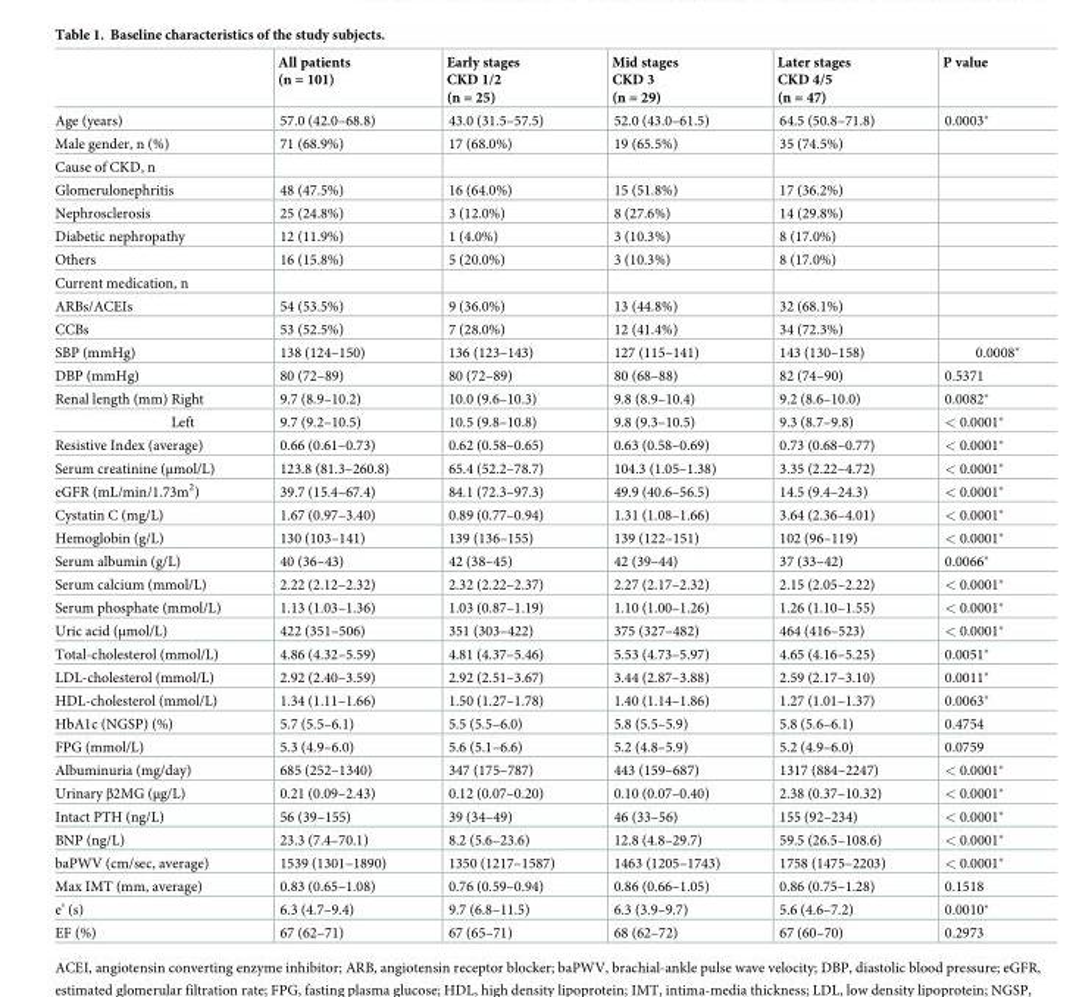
<table><thead><tr><td></td><td>All patients (n = 101)</td><td>Early stages CKD 1/2 (n = 25)</td><td>Mid stages CKD 3 (n = 29)</td><td>Later stages CKD 4/5 (n = 47)</td><td>P value</td></tr></thead><tbody><tr><td>Age (years)</td><td>57.0 (42.0–68.8)</td><td>43.0 (31.5–57.5)</td><td>52.0 (43.0–61.5)</td><td>64.5 (50.8–71.8)</td><td>0.0003*</td></tr><tr><td>Male gender, n (%)</td><td>71 (68.9%)</td><td>17 (68.0%)</td><td>19 (65.5%)</td><td>35 (74.5%)</td><td></td></tr><tr><td colspan="6">Cause of CKD, n</td></tr><tr><td>Glomerulonephritis</td><td>48 (47.5%)</td><td>16 (64.0%)</td><td>15 (51.8%)</td><td>17 (36.2%)</td><td></td></tr><tr><td>Nephrosclerosis</td><td>25 (24.8%)</td><td>3 (12.0%)</td><td>8 (27.6%)</td><td>14 (29.8%)</td><td></td></tr><tr><td>Diabetic nephropathy</td><td>12 (11.9%)</td><td>1 (4.0%)</td><td>3 (10.3%)</td><td>8 (17.0%)</td><td></td></tr><tr><td>Others</td><td>16 (15.8%)</td><td>5 (20.0%)</td><td>3 (10.3%)</td><td>8 (17.0%)</td><td></td></tr><tr><td colspan="6">Current medication, n</td></tr><tr><td>ARBs/ACEIs</td><td>54 (53.5%)</td><td>9 (36.0%)</td><td>13 (44.8%)</td><td>32 (68.1%)</td><td></td></tr><tr><td>CCBs</td><td>53 (52.5%)</td><td>7 (28.0%)</td><td>12 (41.4%)</td><td>34 (72.3%)</td><td></td></tr><tr><td>SBP (mmHg)</td><td>138 (124–150)</td><td>136 (123–143)</td><td>127 (115–141)</td><td>143 (130–158)</td><td>0.0008*</td></tr><tr><td>DBP (mmHg)</td><td>80 (72–89)</td><td>80 (72–89)</td><td>80 (68–88)</td><td>82 (74–90)</td><td>0.5371</td></tr><tr><td>Renal length (mm) Right</td><td>9.7 (8.9–10.2)</td><td>10.0 (9.6–10.3)</td><td>9.8 (8.9–10.4)</td><td>9.2 (8.6–10.0)</td><td>0.0082*</td></tr><tr><td>Left</td><td>9.7 (9.2–10.5)</td><td>10.5 (9.8–10.8)</td><td>9.8 (9.3–10.5)</td><td>9.3 (8.7–9.8)</td><td>&lt; 0.0001*</td></tr><tr><td>Resistive Index (average)</td><td>0.66 (0.61–0.73)</td><td>0.62 (0.58–0.65)</td><td>0.63 (0.58–0.69)</td><td>0.73 (0.68–0.77)</td><td>&lt; 0.0001*</td></tr><tr><td>Serum creatinine (μmol/L)</td><td>123.8 (81.3–260.8)</td><td>65.4 (52.2–78.7)</td><td>104.3 (1.05–1.38)</td><td>3.35 (2.22–4.72)</td><td>&lt; 0.0001*</td></tr><tr><td>eGFR (mL/min/1.73m<sup>2</sup>)</td><td>39.7 (15.4–67.4)</td><td>84.1 (72.3–97.3)</td><td>49.9 (40.6–56.5)</td><td>14.5 (9.4–24.3)</td><td>&lt; 0.0001*</td></tr><tr><td>Cystatin C (mg/L)</td><td>1.67 (0.97–3.40)</td><td>0.89 (0.77–0.94)</td><td>1.31 (1.08–1.66)</td><td>3.64 (2.36–4.01)</td><td>&lt; 0.0001*</td></tr><tr><td>Hemoglobin (g/L)</td><td>130 (103–141)</td><td>139 (136–155)</td><td>139 (122–151)</td><td>102 (96–119)</td><td>&lt; 0.0001*</td></tr><tr><td>Serum albumin (g/L)</td><td>40 (36–43)</td><td>42 (38–45)</td><td>42 (39–44)</td><td>37 (33–42)</td><td>0.0066*</td></tr><tr><td>Serum calcium (mmol/L)</td><td>2.22 (2.12–2.32)</td><td>2.32 (2.22–2.37)</td><td>2.27 (2.17–2.32)</td><td>2.15 (2.05–2.22)</td><td>&lt; 0.0001*</td></tr><tr><td>Serum phosphate (mmol/L)</td><td>1.13 (1.03–1.36)</td><td>1.03 (0.87–1.19)</td><td>1.10 (1.00–1.26)</td><td>1.26 (1.10–1.55)</td><td>&lt; 0.0001*</td></tr><tr><td>Uric acid (μmol/L)</td><td>422 (351–506)</td><td>351 (303–422)</td><td>375 (327–482)</td><td>464 (416–523)</td><td>&lt; 0.0001*</td></tr><tr><td>Total-cholesterol (mmol/L)</td><td>4.86 (4.32–5.59)</td><td>4.81 (4.37–5.46)</td><td>5.53 (4.73–5.97)</td><td>4.65 (4.16–5.25)</td><td>0.0051*</td></tr><tr><td>LDL-cholesterol (mmol/L)</td><td>2.92 (2.40–3.59)</td><td>2.92 (2.51–3.67)</td><td>3.44 (2.87–3.88)</td><td>2.59 (2.17–3.10)</td><td>0.0011*</td></tr><tr><td>HDL-cholesterol (mmol/L)</td><td>1.34 (1.11–1.66)</td><td>1.50 (1.27–1.78)</td><td>1.40 (1.14–1.86)</td><td>1.27 (1.01–1.37)</td><td>0.0063*</td></tr><tr><td>HbA1c (NGSP) (%)</td><td>5.7 (5.5–6.1)</td><td>5.5 (5.5–6.0)</td><td>5.8 (5.5–5.9)</td><td>5.8 (5.6–6.1)</td><td>0.4754</td></tr><tr><td>FPG (mmol/L)</td><td>5.3 (4.9–6.0)</td><td>5.6 (5.1–6.6)</td><td>5.2 (4.8–5.9)</td><td>5.2 (4.9–6.0)</td><td>0.0759</td></tr><tr><td>Albuminuria (mg/day)</td><td>685 (252–1340)</td><td>347 (175–787)</td><td>443 (159–687)</td><td>1317 (884–2247)</td><td>&lt; 0.0001*</td></tr><tr><td>Urinary β2MG (μg/L)</td><td>0.21 (0.09–2.43)</td><td>0.12 (0.07–0.20)</td><td>0.10 (0.07–0.40)</td><td>2.38 (0.37–10.32)</td><td>&lt; 0.0001*</td></tr><tr><td>Intact PTH (ng/L)</td><td>56 (39–155)</td><td>39 (34–49)</td><td>46 (33–56)</td><td>155 (92–234)</td><td>&lt; 0.0001*</td></tr><tr><td>BNP (ng/L)</td><td>23.3 (7.4–70.1)</td><td>8.2 (5.6–23.6)</td><td>12.8 (4.8–29.7)</td><td>59.5 (26.5–108.6)</td><td>&lt; 0.0001*</td></tr><tr><td>baPWV (cm/sec, average)</td><td>1539 (1301–1890)</td><td>1350 (1217–1587)</td><td>1463 (1205–1743)</td><td>1758 (1475–2203)</td><td>&lt; 0.0001*</td></tr><tr><td>Max IMT (mm, average)</td><td>0.83 (0.65–1.08)</td><td>0.76 (0.59–0.94)</td><td>0.86 (0.66–1.05)</td><td>0.86 (0.75–1.28)</td><td>0.1518</td></tr><tr><td>e’ (s)</td><td>6.3 (4.7–9.4)</td><td>9.7 (6.8–11.5)</td><td>6.3 (3.9–9.7)</td><td>5.6 (4.6–7.2)</td><td>0.0010*</td></tr><tr><td>EF (%)</td><td>67 (62–71)</td><td>67 (65–71)</td><td>68 (62–72)</td><td>67 (60–70)</td><td>0.2973</td></tr></tbody></table>